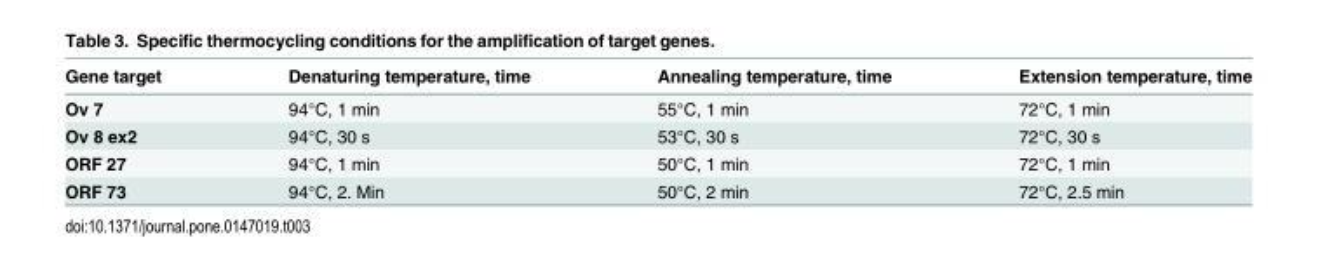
<table><thead><tr><td>Gene target</td><td>Denaturing temperature, time</td><td>Annealing temperature, time</td><td>Extension temperature, time</td></tr></thead><tbody><tr><td>Ov 7</td><td>94°C, 1 min</td><td>55°C, 1 min</td><td>72°C, 1 min</td></tr><tr><td>Ov 8 ex2</td><td>94°C, 30 s</td><td>53°C, 30 s</td><td>72°C, 30 s</td></tr><tr><td>ORF 27</td><td>94°C, 1 min</td><td>50°C, 1 min</td><td>72°C, 1 min</td></tr><tr><td>ORF 73</td><td>94°C, 2. Min</td><td>50°C, 2 min</td><td>72°C, 2.5 min</td></tr></tbody></table>